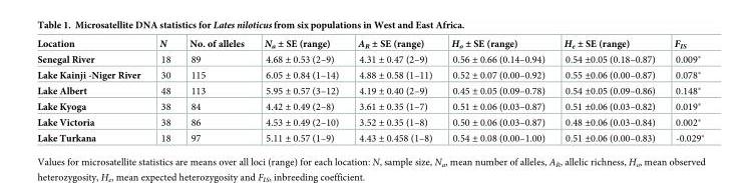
<table><thead><tr><td>Location</td><td>N</td><td>No. of alleles</td><td>N<sub>a</sub> ± SE (range)</td><td>A<sub>R</sub> ± SE (range)</td><td>H<sub>o</sub> ± SE (range)</td><td>H<sub>e</sub> ± SE (range)</td><td>F<sub>IS</sub></td></tr></thead><tbody><tr><td>Senegal River</td><td>18</td><td>89</td><td>4.68 ± 0.53 (2–9)</td><td>4.31 ± 0.47 (2–9)</td><td>0.56 ± 0.66 (0.14–0.94)</td><td>0.54 ±0.05 (0.18–0.87)</td><td>0.009*</td></tr><tr><td>Lake Kainji -Niger River</td><td>30</td><td>115</td><td>6.05 ± 0.84 (1–14)</td><td>4.88 ± 0.58 (1–11)</td><td>0.52 ± 0.07 (0.00–0.92)</td><td>0.55 ±0.06 (0.00–0.87)</td><td>0.078*</td></tr><tr><td>Lake Albert</td><td>48</td><td>113</td><td>5.95 ± 0.57 (3–12)</td><td>4.19 ± 0.40 (2–9)</td><td>0.45 ± 0.05 (0.09–0.78)</td><td>0.54 ±0.05 (0.09–0.86)</td><td>0.148*</td></tr><tr><td>Lake Kyoga</td><td>38</td><td>84</td><td>4.42 ± 0.49 (2–8)</td><td>3.61 ± 0.35 (1–7)</td><td>0.51 ± 0.06 (0.03–0.87)</td><td>0.51 ±0.06 (0.03–0.82)</td><td>0.019*</td></tr><tr><td>Lake Victoria</td><td>38</td><td>86</td><td>4.53 ± 0.49 (2–10)</td><td>3.52 ± 0.35 (1–8)</td><td>0.50 ± 0.06 (0.03–0.87)</td><td>0.48 ±0.06 (0.03–0.84)</td><td>0.002*</td></tr><tr><td>Lake Turkana</td><td>18</td><td>97</td><td>5.11 ± 0.57 (1–9)</td><td>4.43 ± 0.458 (1–8)</td><td>0.54 ± 0.08 (0.00–1.00)</td><td>0.51 ±0.06 (0.00–0.83)</td><td>-0.029*</td></tr></tbody></table>